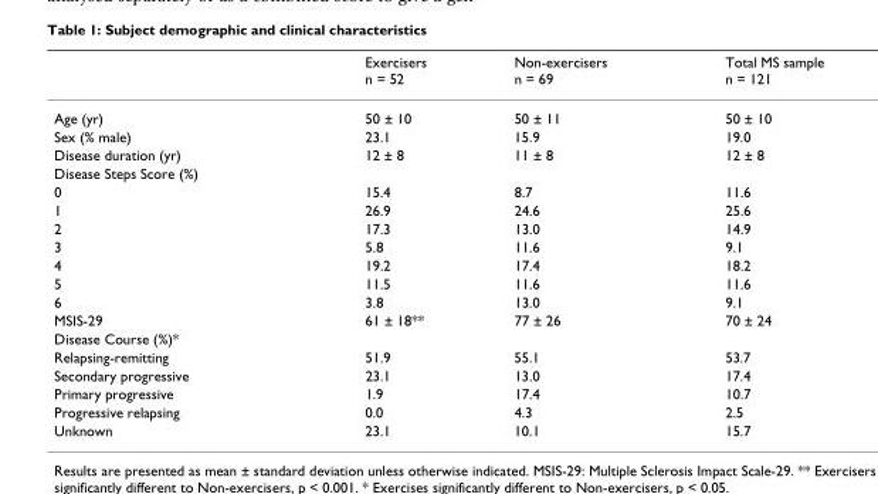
<table><thead><tr><td></td><td>Exercisers n = 52</td><td>Non-exercisers n = 69</td><td>Total MS sample n = 121</td></tr></thead><tbody><tr><td>Age (yr)</td><td>50 ± 10</td><td>50 ± 11</td><td>50 ± 10</td></tr><tr><td>Sex (% male)</td><td>23.1</td><td>15.9</td><td>19.0</td></tr><tr><td>Disease duration (yr)</td><td>12 ± 8</td><td>11 ± 8</td><td>12 ± 8</td></tr><tr><td colspan="4">Disease Steps Score (%)</td></tr><tr><td>0</td><td>15.4</td><td>8.7</td><td>11.6</td></tr><tr><td>1</td><td>26.9</td><td>24.6</td><td>25.6</td></tr><tr><td>2</td><td>17.3</td><td>13.0</td><td>14.9</td></tr><tr><td>3</td><td>5.8</td><td>11.6</td><td>9.1</td></tr><tr><td>4</td><td>19.2</td><td>17.4</td><td>18.2</td></tr><tr><td>5</td><td>11.5</td><td>11.6</td><td>11.6</td></tr><tr><td>6</td><td>3.8</td><td>13.0</td><td>9.1</td></tr><tr><td>MSIS-29</td><td>61 ± 18**</td><td>77 ± 26</td><td>70 ± 24</td></tr><tr><td colspan="4">Disease Course (%)*</td></tr><tr><td>Relapsing-remitting</td><td>51.9</td><td>55.1</td><td>53.7</td></tr><tr><td>Secondary progressive</td><td>23.1</td><td>13.0</td><td>17.4</td></tr><tr><td>Primary progressive</td><td>1.9</td><td>17.4</td><td>10.7</td></tr><tr><td>Progressive relapsing</td><td>0.0</td><td>4.3</td><td>2.5</td></tr><tr><td>Unknown</td><td>23.1</td><td>10.1</td><td>15.7</td></tr></tbody></table>